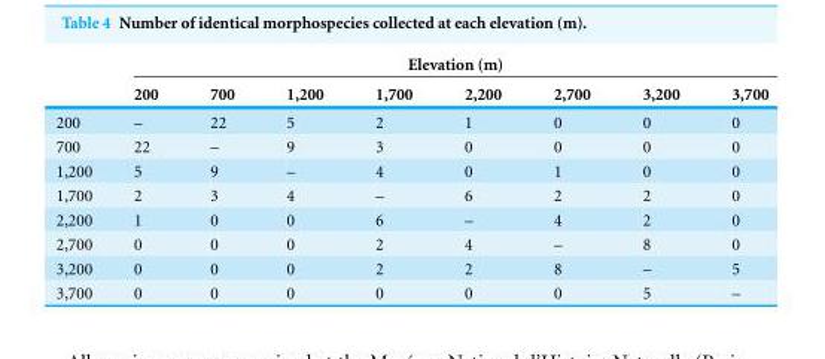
<table><thead><tr><td rowspan="2"></td><td colspan="8">Elevation (m)</td></tr><tr><td>200</td><td>700</td><td>1,200</td><td>1,700</td><td>2,200</td><td>2,700</td><td>3,200</td><td>3,700</td></tr></thead><tbody><tr><td>200</td><td>–</td><td>22</td><td>5</td><td>2</td><td>1</td><td>0</td><td>0</td><td>0</td></tr><tr><td>700</td><td>22</td><td>–</td><td>9</td><td>3</td><td>0</td><td>0</td><td>0</td><td>0</td></tr><tr><td>1,200</td><td>5</td><td>9</td><td>–</td><td>4</td><td>0</td><td>1</td><td>0</td><td>0</td></tr><tr><td>1,700</td><td>2</td><td>3</td><td>4</td><td>–</td><td>6</td><td>2</td><td>2</td><td>0</td></tr><tr><td>2,200</td><td>1</td><td>0</td><td>0</td><td>6</td><td>–</td><td>4</td><td>2</td><td>0</td></tr><tr><td>2,700</td><td>0</td><td>0</td><td>0</td><td>2</td><td>4</td><td>–</td><td>8</td><td>0</td></tr><tr><td>3,200</td><td>0</td><td>0</td><td>0</td><td>2</td><td>2</td><td>8</td><td>–</td><td>5</td></tr><tr><td>3,700</td><td>0</td><td>0</td><td>0</td><td>0</td><td>0</td><td>0</td><td>5</td><td>–</td></tr></tbody></table>